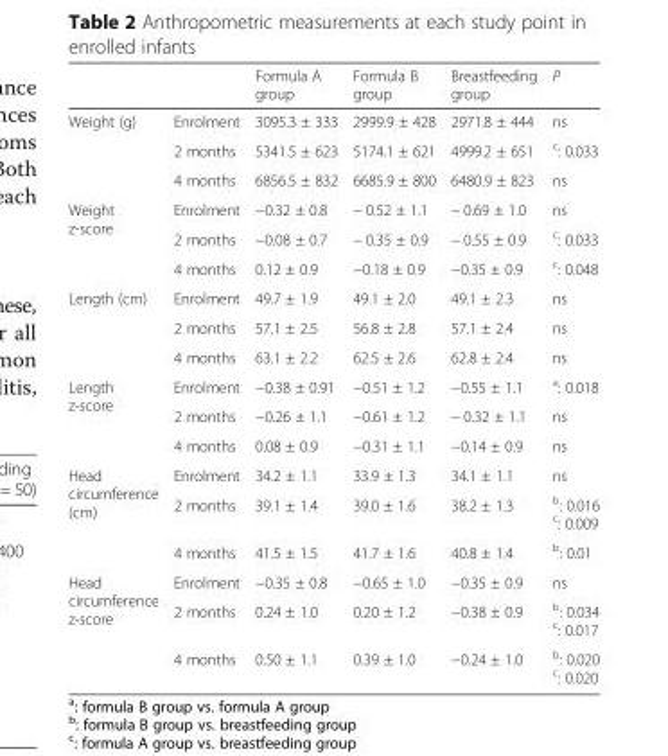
<table><thead><tr><td></td><td></td><td>Formula A group</td><td>Formula B group</td><td>Breastfeeding group</td><td>P</td></tr></thead><tbody><tr><td rowspan="3">Weight (g)</td><td>Enrolment</td><td>3095.3 ± 333</td><td>2999.9 ± 428</td><td>2971.8 ± 444</td><td>ns</td></tr><tr><td>2 months</td><td>5341.5 ± 623</td><td>5174.1 ± 621</td><td>4999.2 ± 651</td><td><sup>c</sup>: 0.033</td></tr><tr><td>4 months</td><td>6856.5 ± 832</td><td>6685.9 ± 800</td><td>6480.9 ± 823</td><td>ns</td></tr><tr><td rowspan="3">Weight z-score</td><td>Enrolment</td><td>−0.32 ± 0.8</td><td>− 0.52 ± 1.1</td><td>− 0.69 ± 1.0</td><td>ns</td></tr><tr><td>2 months</td><td>−0.08 ± 0.7</td><td>− 0.35 ± 0.9</td><td>− 0.55 ± 0.9</td><td><sup>c</sup>: 0.033</td></tr><tr><td>4 months</td><td>0.12 ± 0.9</td><td>−0.18 ± 0.9</td><td>−0.35 ± 0.9</td><td><sup>c</sup>: 0.048</td></tr><tr><td rowspan="3">Length (cm)</td><td>Enrolment</td><td>49.7 ± 1.9</td><td>49.1 ± 2.0</td><td>49.1 ± 2.3</td><td>ns</td></tr><tr><td>2 months</td><td>57.1 ± 2.5</td><td>56.8 ± 2.8</td><td>57.1 ± 2.4</td><td>ns</td></tr><tr><td>4 months</td><td>63.1 ± 2.2</td><td>62.5 ± 2.6</td><td>62.8 ± 2.4</td><td>ns</td></tr><tr><td rowspan="3">Length z-score</td><td>Enrolment</td><td>−0.38 ± 0.91</td><td>−0.51 ± 1.2</td><td>−0.55 ± 1.1</td><td><sup>a</sup>: 0.018</td></tr><tr><td>2 months</td><td>−0.26 ± 1.1</td><td>−0.61 ± 1.2</td><td>− 0.32 ± 1.1</td><td>ns</td></tr><tr><td>4 months</td><td>0.08 ± 0.9</td><td>−0.31 ± 1.1</td><td>−0.14 ± 0.9</td><td>ns</td></tr><tr><td rowspan="3">Head circumference (cm)</td><td>Enrolment</td><td>34.2 ± 1.1</td><td>33.9 ± 1.3</td><td>34.1 ± 1.1</td><td>ns</td></tr><tr><td>2 months</td><td>39.1 ± 1.4</td><td>39.0 ± 1.6</td><td>38.2 ± 1.3</td><td><sup>b</sup>: 0.016 <sup>c</sup>: 0.009</td></tr><tr><td>4 months</td><td>41.5 ± 1.5</td><td>41.7 ± 1.6</td><td>40.8 ± 1.4</td><td><sup>b</sup>: 0.01</td></tr><tr><td rowspan="3">Head circumference z-score</td><td>Enrolment</td><td>−0.35 ± 0.8</td><td>−0.65 ± 1.0</td><td>−0.35 ± 0.9</td><td>ns</td></tr><tr><td>2 months</td><td>0.24 ± 1.0</td><td>0.20 ± 1.2</td><td>−0.38 ± 0.9</td><td><sup>b</sup>: 0.034 <sup>c</sup>: 0.017</td></tr><tr><td>4 months</td><td>0.50 ± 1.1</td><td>0.39 ± 1.0</td><td>−0.24 ± 1.0</td><td><sup>b</sup>: 0.020 <sup>c</sup>: 0.020</td></tr></tbody></table>